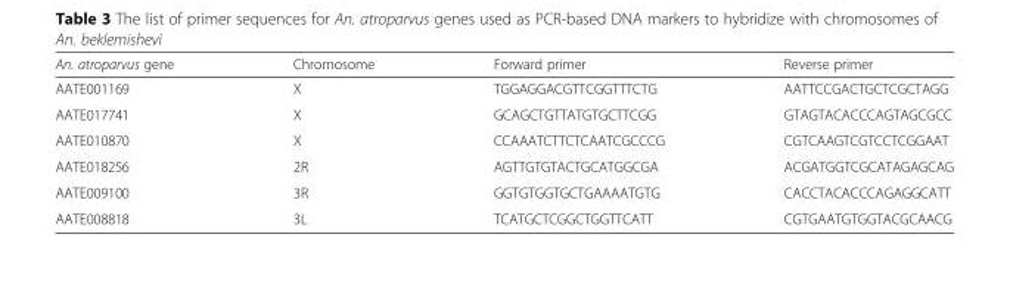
<table><thead><tr><td>An. atroparvus gene</td><td>Chromosome</td><td>Forward primer</td><td>Reverse primer</td></tr></thead><tbody><tr><td>AATE001169</td><td>X</td><td>TGGAGGACGTTCGGTTTCTG</td><td>AATTCCGACTGCTCGCTAGG</td></tr><tr><td>AATE017741</td><td>X</td><td>GCAGCTGTTATGTGCTTCGG</td><td>GTAGTACACCCAGTAGCGCC</td></tr><tr><td>AATE010870</td><td>X</td><td>CCAAATCTTCTCAATCGCCCG</td><td>CGTCAAGTCGTCCTCGGAAT</td></tr><tr><td>AATE018256</td><td>2R</td><td>AGTTGTGTACTGCATGGCGA</td><td>ACGATGGTCGCATAGAGCAG</td></tr><tr><td>AATE009100</td><td>3R</td><td>GGTGTGGTGCTGAAAATGTG</td><td>CACCTACACCCAGAGGCATT</td></tr><tr><td>AATE008818</td><td>3L</td><td>TCATGCTCGGCTGGTTCATT</td><td>CGTGAATGTGGTACGCAACG</td></tr></tbody></table>